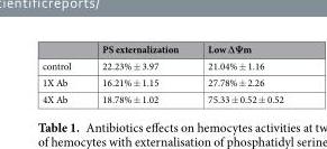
<table><thead><tr><td></td><td>PS externalization</td><td>Low ∆Ψm</td></tr></thead><tbody><tr><td>control</td><td>22.23% ± 3.97</td><td>21.04% ± 1.16</td></tr><tr><td>1X Ab</td><td>16.21% ± 1.15</td><td>27.78% ± 2.26</td></tr><tr><td>4X Ab</td><td>18.78% ± 1.02</td><td>75.33 ± 0.52 ± 0.52</td></tr></tbody></table>